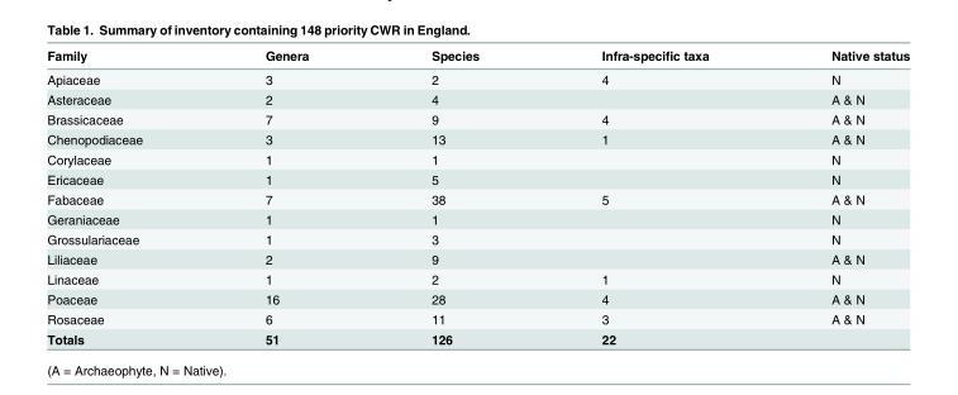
<table><thead><tr><td>Family</td><td>Genera</td><td>Species</td><td>Infra-specific taxa</td><td>Native status</td></tr></thead><tbody><tr><td>Apiaceae</td><td>3</td><td>2</td><td>4</td><td>N</td></tr><tr><td>Asteraceae</td><td>2</td><td>4</td><td></td><td>A &amp; N</td></tr><tr><td>Brassicaceae</td><td>7</td><td>9</td><td>4</td><td>A &amp; N</td></tr><tr><td>Chenopodiaceae</td><td>3</td><td>13</td><td>1</td><td>A &amp; N</td></tr><tr><td>Corylaceae</td><td>1</td><td>1</td><td></td><td>N</td></tr><tr><td>Ericaceae</td><td>1</td><td>5</td><td></td><td>N</td></tr><tr><td>Fabaceae</td><td>7</td><td>38</td><td>5</td><td>A &amp; N</td></tr><tr><td>Geraniaceae</td><td>1</td><td>1</td><td></td><td>N</td></tr><tr><td>Grossulariaceae</td><td>1</td><td>3</td><td></td><td>N</td></tr><tr><td>Liliaceae</td><td>2</td><td>9</td><td></td><td>A &amp; N</td></tr><tr><td>Linaceae</td><td>1</td><td>2</td><td>1</td><td>N</td></tr><tr><td>Poaceae</td><td>16</td><td>28</td><td>4</td><td>A &amp; N</td></tr><tr><td>Rosaceae</td><td>6</td><td>11</td><td>3</td><td>A &amp; N</td></tr><tr><td>Totals</td><td>51</td><td>126</td><td>22</td><td></td></tr></tbody></table>